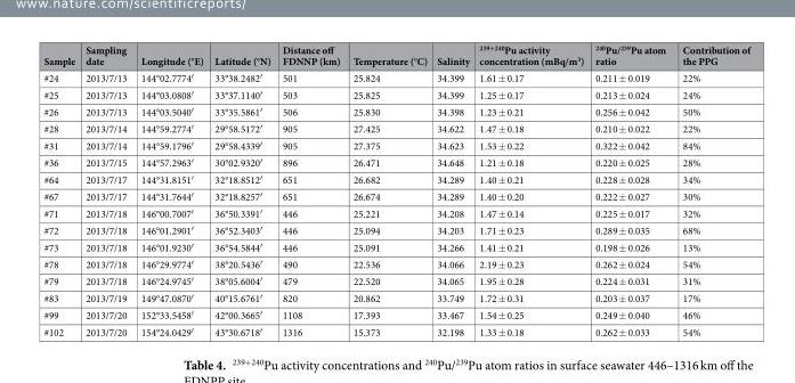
<table><thead><tr><td>Sample</td><td>Sampling date</td><td>Longitude (°E)</td><td>Latitude (°N)</td><td>Distance off FDNNP (km)</td><td>Temperature (°C)</td><td>Salinity</td><td><sup>239+240</sup>Pu activity concentration (mBq/m<sup>3</sup>)</td><td><sup>240</sup>Pu/<sup>239</sup>Pu atom ratio</td><td>Contribution of the PPG</td></tr></thead><tbody><tr><td>#24</td><td>2013/7/13</td><td>144°02.7774′</td><td>33°38.2482′</td><td>501</td><td>25.824</td><td>34.399</td><td>1.61 ± 0.17</td><td>0.211 ± 0.019</td><td>22%</td></tr><tr><td>#25</td><td>2013/7/13</td><td>144°03.0808′</td><td>33°37.1140′</td><td>503</td><td>25.825</td><td>34.399</td><td>1.25 ± 0.17</td><td>0.213 ± 0.024</td><td>24%</td></tr><tr><td>#26</td><td>2013/7/13</td><td>144°03.5040′</td><td>33°35.5861′</td><td>506</td><td>25.830</td><td>34.398</td><td>1.23 ± 0.21</td><td>0.256 ± 0.042</td><td>50%</td></tr><tr><td>#28</td><td>2013/7/14</td><td>144°59.2774′</td><td>29°58.5172′</td><td>905</td><td>27.425</td><td>34.622</td><td>1.47 ± 0.18</td><td>0.210 ± 0.022</td><td>22%</td></tr><tr><td>#31</td><td>2013/7/14</td><td>144°59.1796′</td><td>29°58.4339′</td><td>905</td><td>27.375</td><td>34.623</td><td>1.53 ± 0.22</td><td>0.322 ± 0.042</td><td>84%</td></tr><tr><td>#36</td><td>2013/7/15</td><td>144°57.2963′</td><td>30°02.9320′</td><td>896</td><td>26.471</td><td>34.648</td><td>1.21 ± 0.18</td><td>0.220 ± 0.025</td><td>28%</td></tr><tr><td>#64</td><td>2013/7/17</td><td>144°31.8151′</td><td>32°18.8512′</td><td>651</td><td>26.682</td><td>34.289</td><td>1.40 ± 0.21</td><td>0.228 ± 0.028</td><td>34%</td></tr><tr><td>#67</td><td>2013/7/17</td><td>144°31.7644′</td><td>32°18.8257′</td><td>651</td><td>26.674</td><td>34.289</td><td>1.40 ± 0.20</td><td>0.222 ± 0.027</td><td>30%</td></tr><tr><td>#71</td><td>2013/7/18</td><td>146°00.7007′</td><td>36°50.3391′</td><td>446</td><td>25.221</td><td>34.208</td><td>1.47 ± 0.14</td><td>0.225 ± 0.017</td><td>32%</td></tr><tr><td>#72</td><td>2013/7/18</td><td>146°01.2901′</td><td>36°52.3403′</td><td>446</td><td>25.094</td><td>34.203</td><td>1.71 ± 0.23</td><td>0.289 ± 0.035</td><td>68%</td></tr><tr><td>#73</td><td>2013/7/18</td><td>146°01.9230′</td><td>36°54.5844′</td><td>446</td><td>25.091</td><td>34.266</td><td>1.41 ± 0.21</td><td>0.198 ± 0.026</td><td>13%</td></tr><tr><td>#78</td><td>2013/7/18</td><td>146°29.9774′</td><td>38°20.5436′</td><td>490</td><td>22.536</td><td>34.066</td><td>2.19 ± 0.23</td><td>0.262 ± 0.024</td><td>54%</td></tr><tr><td>#79</td><td>2013/7/18</td><td>146°24.9745′</td><td>38°05.6004′</td><td>479</td><td>22.520</td><td>34.065</td><td>1.95 ± 0.28</td><td>0.224 ± 0.031</td><td>31%</td></tr><tr><td>#83</td><td>2013/7/19</td><td>149°47.0870′</td><td>40°15.6761′</td><td>820</td><td>20.862</td><td>33.749</td><td>1.72 ± 0.31</td><td>0.203 ± 0.037</td><td>17%</td></tr><tr><td>#99</td><td>2013/7/20</td><td>152°33.5458′</td><td>42°00.3665′</td><td>1108</td><td>17.393</td><td>33.467</td><td>1.54 ± 0.25</td><td>0.249 ± 0.040</td><td>46%</td></tr><tr><td>#102</td><td>2013/7/20</td><td>154°24.0429′</td><td>43°30.6718′</td><td>1316</td><td>15.373</td><td>32.198</td><td>1.33 ± 0.18</td><td>0.262 ± 0.033</td><td>54%</td></tr></tbody></table>